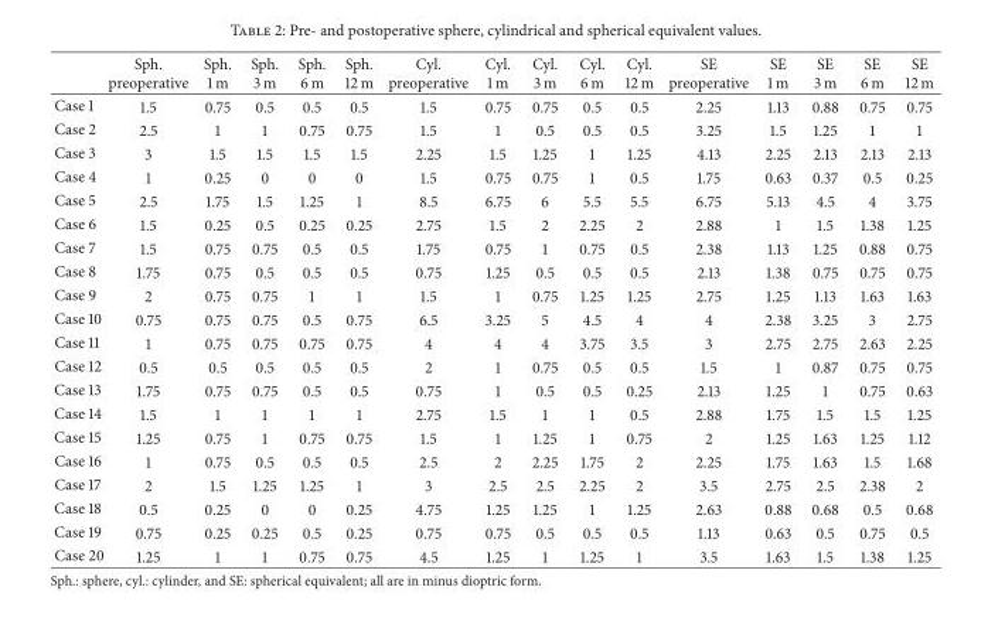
<table><thead><tr><td></td><td>Sph. preoperative</td><td>Sph. 1 m</td><td>Sph. 3 m</td><td>Sph. 6 m</td><td>Sph. 12 m</td><td>Cyl. preoperative</td><td>Cyl. 1 m</td><td>Cyl. 3 m</td><td>Cyl. 6 m</td><td>Cyl. 12 m</td><td>SE preoperative</td><td>SE 1 m</td><td>SE 3 m</td><td>SE 6 m</td><td>SE 12 m</td></tr></thead><tbody><tr><td>Case 1</td><td>1.5</td><td>0.75</td><td>0.5</td><td>0.5</td><td>0.5</td><td>1.5</td><td>0.75</td><td>0.75</td><td>0.5</td><td>0.5</td><td>2.25</td><td>1.13</td><td>0.88</td><td>0.75</td><td>0.75</td></tr><tr><td>Case 2</td><td>2.5</td><td>1</td><td>1</td><td>0.75</td><td>0.75</td><td>1.5</td><td>1</td><td>0.5</td><td>0.5</td><td>0.5</td><td>3.25</td><td>1.5</td><td>1.25</td><td>1</td><td>1</td></tr><tr><td>Case 3</td><td>3</td><td>1.5</td><td>1.5</td><td>1.5</td><td>1.5</td><td>2.25</td><td>1.5</td><td>1.25</td><td>1</td><td>1.25</td><td>4.13</td><td>2.25</td><td>2.13</td><td>2.13</td><td>2.13</td></tr><tr><td>Case 4</td><td>1</td><td>0.25</td><td>0</td><td>0</td><td>0</td><td>1.5</td><td>0.75</td><td>0.75</td><td>1</td><td>0.5</td><td>1.75</td><td>0.63</td><td>0.37</td><td>0.5</td><td>0.25</td></tr><tr><td>Case 5</td><td>2.5</td><td>1.75</td><td>1.5</td><td>1.25</td><td>1</td><td>8.5</td><td>6.75</td><td>6</td><td>5.5</td><td>5.5</td><td>6.75</td><td>5.13</td><td>4.5</td><td>4</td><td>3.75</td></tr><tr><td>Case 6</td><td>1.5</td><td>0.25</td><td>0.5</td><td>0.25</td><td>0.25</td><td>2.75</td><td>1.5</td><td>2</td><td>2.25</td><td>2</td><td>2.88</td><td>1</td><td>1.5</td><td>1.38</td><td>1.25</td></tr><tr><td>Case 7</td><td>1.5</td><td>0.75</td><td>0.75</td><td>0.5</td><td>0.5</td><td>1.75</td><td>0.75</td><td>1</td><td>0.75</td><td>0.5</td><td>2.38</td><td>1.13</td><td>1.25</td><td>0.88</td><td>0.75</td></tr><tr><td>Case 8</td><td>1.75</td><td>0.75</td><td>0.5</td><td>0.5</td><td>0.5</td><td>0.75</td><td>1.25</td><td>0.5</td><td>0.5</td><td>0.5</td><td>2.13</td><td>1.38</td><td>0.75</td><td>0.75</td><td>0.75</td></tr><tr><td>Case 9</td><td>2</td><td>0.75</td><td>0.75</td><td>1</td><td>1</td><td>1.5</td><td>1</td><td>0.75</td><td>1.25</td><td>1.25</td><td>2.75</td><td>1.25</td><td>1.13</td><td>1.63</td><td>1.63</td></tr><tr><td>Case 10</td><td>0.75</td><td>0.75</td><td>0.75</td><td>0.5</td><td>0.75</td><td>6.5</td><td>3.25</td><td>5</td><td>4.5</td><td>4</td><td>4</td><td>2.38</td><td>3.25</td><td>3</td><td>2.75</td></tr><tr><td>Case 11</td><td>1</td><td>0.75</td><td>0.75</td><td>0.75</td><td>0.75</td><td>4</td><td>4</td><td>4</td><td>3.75</td><td>3.5</td><td>3</td><td>2.75</td><td>2.75</td><td>2.63</td><td>2.25</td></tr><tr><td>Case 12</td><td>0.5</td><td>0.5</td><td>0.5</td><td>0.5</td><td>0.5</td><td>2</td><td>1</td><td>0.75</td><td>0.5</td><td>0.5</td><td>1.5</td><td>1</td><td>0.87</td><td>0.75</td><td>0.75</td></tr><tr><td>Case 13</td><td>1.75</td><td>0.75</td><td>0.75</td><td>0.5</td><td>0.5</td><td>0.75</td><td>1</td><td>0.5</td><td>0.5</td><td>0.25</td><td>2.13</td><td>1.25</td><td>1</td><td>0.75</td><td>0.63</td></tr><tr><td>Case 14</td><td>1.5</td><td>1</td><td>1</td><td>1</td><td>1</td><td>2.75</td><td>1.5</td><td>1</td><td>1</td><td>0.5</td><td>2.88</td><td>1.75</td><td>1.5</td><td>1.5</td><td>1.25</td></tr><tr><td>Case 15</td><td>1.25</td><td>0.75</td><td>1</td><td>0.75</td><td>0.75</td><td>1.5</td><td>1</td><td>1.25</td><td>1</td><td>0.75</td><td>2</td><td>1.25</td><td>1.63</td><td>1.25</td><td>1.12</td></tr><tr><td>Case 16</td><td>1</td><td>0.75</td><td>0.5</td><td>0.5</td><td>0.5</td><td>2.5</td><td>2</td><td>2.25</td><td>1.75</td><td>2</td><td>2.25</td><td>1.75</td><td>1.63</td><td>1.5</td><td>1.68</td></tr><tr><td>Case 17</td><td>2</td><td>1.5</td><td>1.25</td><td>1.25</td><td>1</td><td>3</td><td>2.5</td><td>2.5</td><td>2.25</td><td>2</td><td>3.5</td><td>2.75</td><td>2.5</td><td>2.38</td><td>2</td></tr><tr><td>Case 18</td><td>0.5</td><td>0.25</td><td>0</td><td>0</td><td>0.25</td><td>4.75</td><td>1.25</td><td>1.25</td><td>1</td><td>1.25</td><td>2.63</td><td>0.88</td><td>0.68</td><td>0.5</td><td>0.68</td></tr><tr><td>Case 19</td><td>0.75</td><td>0.25</td><td>0.25</td><td>0.5</td><td>0.25</td><td>0.75</td><td>0.75</td><td>0.5</td><td>0.5</td><td>0.5</td><td>1.13</td><td>0.63</td><td>0.5</td><td>0.75</td><td>0.5</td></tr><tr><td>Case 20</td><td>1.25</td><td>1</td><td>1</td><td>0.75</td><td>0.75</td><td>4.5</td><td>1.25</td><td>1</td><td>1.25</td><td>1</td><td>3.5</td><td>1.63</td><td>1.5</td><td>1.38</td><td>1.25</td></tr></tbody></table>